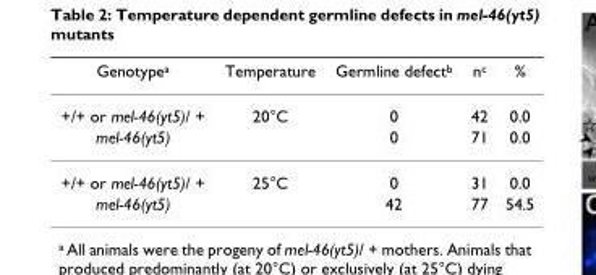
<table><thead><tr><td>Genotype<sup>a</sup></td><td>Temperature</td><td>Germline defect<sup>b</sup></td><td>n<sup>c</sup></td><td>%</td></tr></thead><tbody><tr><td>+/+ or mel-46(yt5)/ +</td><td>20°C</td><td>0</td><td>42</td><td>0.0</td></tr><tr><td>mel-46(yt5)</td><td></td><td>0</td><td>71</td><td>0.0</td></tr><tr><td>+/+ or mel-46(yt5)/ +</td><td>25°C</td><td>0</td><td>31</td><td>0.0</td></tr><tr><td>mel-46(yt5)</td><td></td><td>42</td><td>77</td><td>54.5</td></tr></tbody></table>